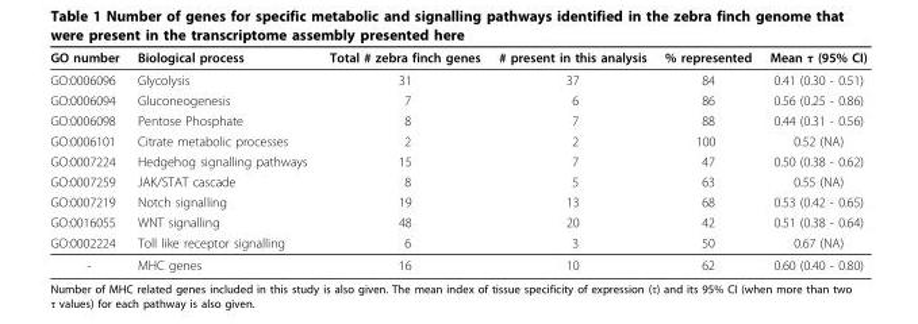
<table><thead><tr><td>GO number</td><td>Biological process</td><td>Total # zebra finch genes</td><td># present in this analysis</td><td>% represented</td><td>Mean τ (95% CI)</td></tr></thead><tbody><tr><td>GO:0006096</td><td>Glycolysis</td><td>31</td><td>37</td><td>84</td><td>0.41 (0.30 - 0.51)</td></tr><tr><td>GO:0006094</td><td>Gluconeogenesis</td><td>7</td><td>6</td><td>86</td><td>0.56 (0.25 - 0.86)</td></tr><tr><td>GO:0006098</td><td>Pentose Phosphate</td><td>8</td><td>7</td><td>88</td><td>0.44 (0.31 - 0.56)</td></tr><tr><td>GO:0006101</td><td>Citrate metabolic processes</td><td>2</td><td>2</td><td>100</td><td>0.52 (NA)</td></tr><tr><td>GO:0007224</td><td>Hedgehog signalling pathways</td><td>15</td><td>7</td><td>47</td><td>0.50 (0.38 - 0.62)</td></tr><tr><td>GO:0007259</td><td>JAK/STAT cascade</td><td>8</td><td>5</td><td>63</td><td>0.55 (NA)</td></tr><tr><td>GO:0007219</td><td>Notch signalling</td><td>19</td><td>13</td><td>68</td><td>0.53 (0.42 - 0.65)</td></tr><tr><td>GO:0016055</td><td>WNT signalling</td><td>48</td><td>20</td><td>42</td><td>0.51 (0.38 - 0.64)</td></tr><tr><td>GO:0002224</td><td>Toll like receptor signalling</td><td>6</td><td>3</td><td>50</td><td>0.67 (NA)</td></tr><tr><td>-</td><td>MHC genes</td><td>16</td><td>10</td><td>62</td><td>0.60 (0.40 - 0.80)</td></tr></tbody></table>